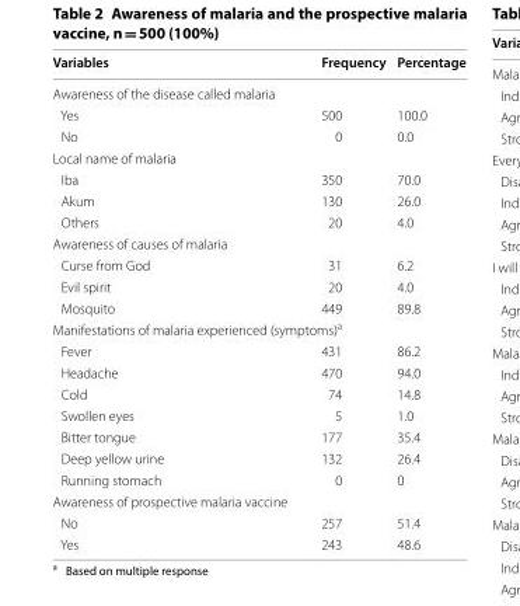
<table><thead><tr><td>Variables</td><td>Frequency</td><td>Percentage</td></tr></thead><tbody><tr><td colspan="3">Awareness of the disease called malaria</td></tr><tr><td>Yes</td><td>500</td><td>100.0</td></tr><tr><td>No</td><td>0</td><td>0.0</td></tr><tr><td colspan="3">Local name of malaria</td></tr><tr><td>Iba</td><td>350</td><td>70.0</td></tr><tr><td>Akum</td><td>130</td><td>26.0</td></tr><tr><td>Others</td><td>20</td><td>4.0</td></tr><tr><td colspan="3">Awareness of causes of malaria</td></tr><tr><td>Curse from God</td><td>31</td><td>6.2</td></tr><tr><td>Evil spirit</td><td>20</td><td>4.0</td></tr><tr><td>Mosquito</td><td>449</td><td>89.8</td></tr><tr><td colspan="3">Manifestations of malaria experienced (symptoms)<sup>a</sup></td></tr><tr><td>Fever</td><td>431</td><td>86.2</td></tr><tr><td>Headache</td><td>470</td><td>94.0</td></tr><tr><td>Cold</td><td>74</td><td>14.8</td></tr><tr><td>Swollen eyes</td><td>5</td><td>1.0</td></tr><tr><td>Bitter tongue</td><td>177</td><td>35.4</td></tr><tr><td>Deep yellow urine</td><td>132</td><td>26.4</td></tr><tr><td>Running stomach</td><td>0</td><td>0</td></tr><tr><td colspan="3">Awareness of prospective malaria vaccine</td></tr><tr><td>No</td><td>257</td><td>51.4</td></tr><tr><td>Yes</td><td>243</td><td>48.6</td></tr></tbody></table>